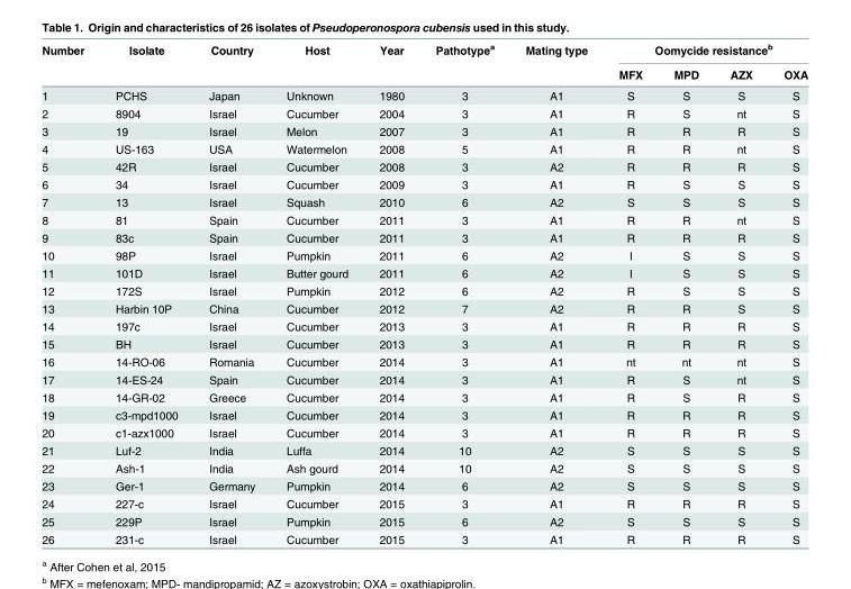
<table><thead><tr><td rowspan="2">Number</td><td rowspan="2">Isolate</td><td rowspan="2">Country</td><td rowspan="2">Host</td><td rowspan="2">Year</td><td rowspan="2">Pathotype<sup>a</sup></td><td rowspan="2">Mating type</td><td colspan="4">Oomycide resistance<sup>b</sup></td></tr><tr><td>MFX</td><td>MPD</td><td>AZX</td><td>OXA</td></tr></thead><tbody><tr><td>1</td><td>PCHS</td><td>Japan</td><td>Unknown</td><td>1980</td><td>3</td><td>A1</td><td>S</td><td>S</td><td>S</td><td>S</td></tr><tr><td>2</td><td>8904</td><td>Israel</td><td>Cucumber</td><td>2004</td><td>3</td><td>A1</td><td>R</td><td>S</td><td>nt</td><td>S</td></tr><tr><td>3</td><td>19</td><td>Israel</td><td>Melon</td><td>2007</td><td>3</td><td>A1</td><td>R</td><td>R</td><td>R</td><td>S</td></tr><tr><td>4</td><td>US-163</td><td>USA</td><td>Watermelon</td><td>2008</td><td>5</td><td>A1</td><td>R</td><td>R</td><td>nt</td><td>S</td></tr><tr><td>5</td><td>42R</td><td>Israel</td><td>Cucumber</td><td>2008</td><td>3</td><td>A2</td><td>R</td><td>R</td><td>R</td><td>S</td></tr><tr><td>6</td><td>34</td><td>Israel</td><td>Cucumber</td><td>2009</td><td>3</td><td>A1</td><td>R</td><td>S</td><td>S</td><td>S</td></tr><tr><td>7</td><td>13</td><td>Israel</td><td>Squash</td><td>2010</td><td>6</td><td>A2</td><td>S</td><td>S</td><td>S</td><td>S</td></tr><tr><td>8</td><td>81</td><td>Spain</td><td>Cucumber</td><td>2011</td><td>3</td><td>A1</td><td>R</td><td>R</td><td>nt</td><td>S</td></tr><tr><td>9</td><td>83c</td><td>Spain</td><td>Cucumber</td><td>2011</td><td>3</td><td>A1</td><td>R</td><td>R</td><td>R</td><td>S</td></tr><tr><td>10</td><td>98P</td><td>Israel</td><td>Pumpkin</td><td>2011</td><td>6</td><td>A2</td><td>I</td><td>S</td><td>S</td><td>S</td></tr><tr><td>11</td><td>101D</td><td>Israel</td><td>Butter gourd</td><td>2011</td><td>6</td><td>A2</td><td>I</td><td>S</td><td>S</td><td>S</td></tr><tr><td>12</td><td>172S</td><td>Israel</td><td>Pumpkin</td><td>2012</td><td>6</td><td>A2</td><td>R</td><td>S</td><td>S</td><td>S</td></tr><tr><td>13</td><td>Harbin 10P</td><td>China</td><td>Cucumber</td><td>2012</td><td>7</td><td>A2</td><td>R</td><td>R</td><td>S</td><td>S</td></tr><tr><td>14</td><td>197c</td><td>Israel</td><td>Cucumber</td><td>2013</td><td>3</td><td>A1</td><td>R</td><td>R</td><td>R</td><td>S</td></tr><tr><td>15</td><td>BH</td><td>Israel</td><td>Cucumber</td><td>2013</td><td>3</td><td>A1</td><td>R</td><td>R</td><td>R</td><td>S</td></tr><tr><td>16</td><td>14-RO-06</td><td>Romania</td><td>Cucumber</td><td>2014</td><td>3</td><td>A1</td><td>nt</td><td>nt</td><td>nt</td><td>S</td></tr><tr><td>17</td><td>14-ES-24</td><td>Spain</td><td>Cucumber</td><td>2014</td><td>3</td><td>A1</td><td>R</td><td>S</td><td>nt</td><td>S</td></tr><tr><td>18</td><td>14-GR-02</td><td>Greece</td><td>Cucumber</td><td>2014</td><td>3</td><td>A1</td><td>R</td><td>S</td><td>R</td><td>S</td></tr><tr><td>19</td><td>c3-mpd1000</td><td>Israel</td><td>Cucumber</td><td>2014</td><td>3</td><td>A1</td><td>R</td><td>R</td><td>R</td><td>S</td></tr><tr><td>20</td><td>c1-azx1000</td><td>Israel</td><td>Cucumber</td><td>2014</td><td>3</td><td>A1</td><td>R</td><td>R</td><td>R</td><td>S</td></tr><tr><td>21</td><td>Luf-2</td><td>India</td><td>Luffa</td><td>2014</td><td>10</td><td>A2</td><td>S</td><td>S</td><td>S</td><td>S</td></tr><tr><td>22</td><td>Ash-1</td><td>India</td><td>Ash gourd</td><td>2014</td><td>10</td><td>A2</td><td>S</td><td>S</td><td>S</td><td>S</td></tr><tr><td>23</td><td>Ger-1</td><td>Germany</td><td>Pumpkin</td><td>2014</td><td>6</td><td>A2</td><td>S</td><td>S</td><td>S</td><td>S</td></tr><tr><td>24</td><td>227-c</td><td>Israel</td><td>Cucumber</td><td>2015</td><td>3</td><td>A1</td><td>R</td><td>R</td><td>R</td><td>S</td></tr><tr><td>25</td><td>229P</td><td>Israel</td><td>Pumpkin</td><td>2015</td><td>6</td><td>A2</td><td>S</td><td>S</td><td>S</td><td>S</td></tr><tr><td>26</td><td>231-c</td><td>Israel</td><td>Cucumber</td><td>2015</td><td>3</td><td>A1</td><td>R</td><td>R</td><td>R</td><td>S</td></tr></tbody></table>